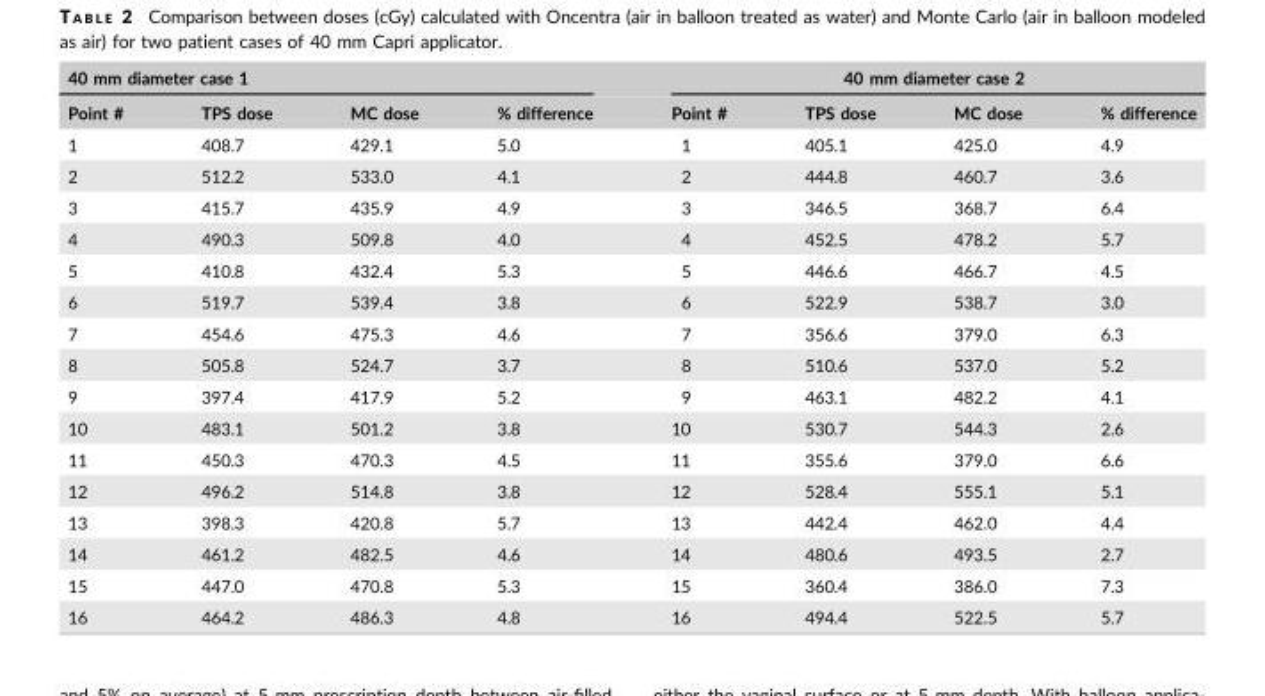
<table><thead><tr><td colspan="4">40 mm diameter case 1</td><td colspan="4">40 mm diameter case 2</td></tr><tr><td>Point #</td><td>TPS dose</td><td>MC dose</td><td>% difference</td><td>Point #</td><td>TPS dose</td><td>MC dose</td><td>% difference</td></tr></thead><tbody><tr><td>1</td><td>408.7</td><td>429.1</td><td>5.0</td><td>1</td><td>405.1</td><td>425.0</td><td>4.9</td></tr><tr><td>2</td><td>512.2</td><td>533.0</td><td>4.1</td><td>2</td><td>444.8</td><td>460.7</td><td>3.6</td></tr><tr><td>3</td><td>415.7</td><td>435.9</td><td>4.9</td><td>3</td><td>346.5</td><td>368.7</td><td>6.4</td></tr><tr><td>4</td><td>490.3</td><td>509.8</td><td>4.0</td><td>4</td><td>452.5</td><td>478.2</td><td>5.7</td></tr><tr><td>5</td><td>410.8</td><td>432.4</td><td>5.3</td><td>5</td><td>446.6</td><td>466.7</td><td>4.5</td></tr><tr><td>6</td><td>519.7</td><td>539.4</td><td>3.8</td><td>6</td><td>522.9</td><td>538.7</td><td>3.0</td></tr><tr><td>7</td><td>454.6</td><td>475.3</td><td>4.6</td><td>7</td><td>356.6</td><td>379.0</td><td>6.3</td></tr><tr><td>8</td><td>505.8</td><td>524.7</td><td>3.7</td><td>8</td><td>510.6</td><td>537.0</td><td>5.2</td></tr><tr><td>9</td><td>397.4</td><td>417.9</td><td>5.2</td><td>9</td><td>463.1</td><td>482.2</td><td>4.1</td></tr><tr><td>10</td><td>483.1</td><td>501.2</td><td>3.8</td><td>10</td><td>530.7</td><td>544.3</td><td>2.6</td></tr><tr><td>11</td><td>450.3</td><td>470.3</td><td>4.5</td><td>11</td><td>355.6</td><td>379.0</td><td>6.6</td></tr><tr><td>12</td><td>496.2</td><td>514.8</td><td>3.8</td><td>12</td><td>528.4</td><td>555.1</td><td>5.1</td></tr><tr><td>13</td><td>398.3</td><td>420.8</td><td>5.7</td><td>13</td><td>442.4</td><td>462.0</td><td>4.4</td></tr><tr><td>14</td><td>461.2</td><td>482.5</td><td>4.6</td><td>14</td><td>480.6</td><td>493.5</td><td>2.7</td></tr><tr><td>15</td><td>447.0</td><td>470.8</td><td>5.3</td><td>15</td><td>360.4</td><td>386.0</td><td>7.3</td></tr><tr><td>16</td><td>464.2</td><td>486.3</td><td>4.8</td><td>16</td><td>494.4</td><td>522.5</td><td>5.7</td></tr></tbody></table>